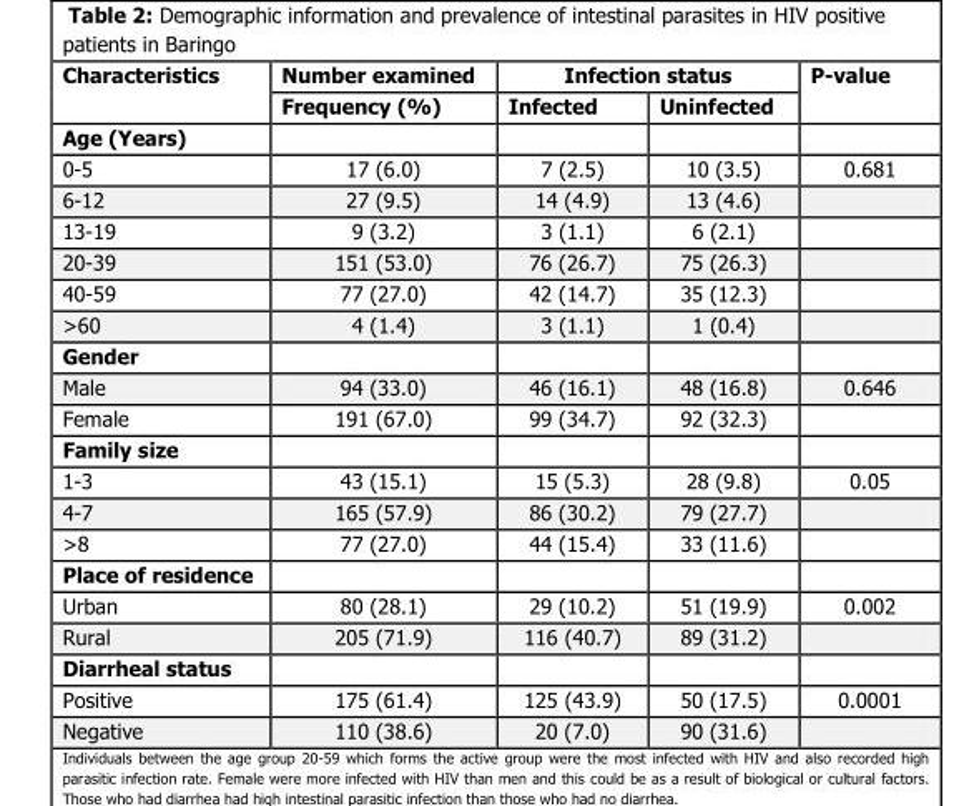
<table><thead><tr><td rowspan="2">Characteristics</td><td rowspan="2">Number examined Frequency (%)</td><td colspan="2">Infection status</td><td rowspan="2">P-value</td></tr><tr><td>Infected</td><td>Uninfected</td></tr></thead><tbody><tr><td colspan="5">Age (Years)</td></tr><tr><td>0-5</td><td>17 (6.0)</td><td>7 (2.5)</td><td>10 (3.5)</td><td>0.681</td></tr><tr><td>6-12</td><td>27 (9.5)</td><td>14 (4.9)</td><td>13 (4.6)</td><td></td></tr><tr><td>13-19</td><td>9 (3.2)</td><td>3 (1.1)</td><td>6 (2.1)</td><td></td></tr><tr><td>20-39</td><td>151 (53.0)</td><td>76 (26.7)</td><td>75 (26.3)</td><td></td></tr><tr><td>40-59</td><td>77 (27.0)</td><td>42 (14.7)</td><td>35 (12.3)</td><td></td></tr><tr><td>&gt;60</td><td>4 (1.4)</td><td>3 (1.1)</td><td>1 (0.4)</td><td></td></tr><tr><td colspan="5">Gender</td></tr><tr><td>Male</td><td>94 (33.0)</td><td>46 (16.1)</td><td>48 (16.8)</td><td>0.646</td></tr><tr><td>Female</td><td>191 (67.0)</td><td>99 (34.7)</td><td>92 (32.3)</td><td></td></tr><tr><td colspan="5">Family size</td></tr><tr><td>1-3</td><td>43 (15.1)</td><td>15 (5.3)</td><td>28 (9.8)</td><td>0.05</td></tr><tr><td>4-7</td><td>165 (57.9)</td><td>86 (30.2)</td><td>79 (27.7)</td><td></td></tr><tr><td>&gt;8</td><td>77 (27.0)</td><td>44 (15.4)</td><td>33 (11.6)</td><td></td></tr><tr><td colspan="5">Place of residence</td></tr><tr><td>Urban</td><td>80 (28.1)</td><td>29 (10.2)</td><td>51 (19.9)</td><td>0.002</td></tr><tr><td>Rural</td><td>205 (71.9)</td><td>116 (40.7)</td><td>89 (31.2)</td><td></td></tr><tr><td colspan="5">Diarrheal status</td></tr><tr><td>Positive</td><td>175 (61.4)</td><td>125 (43.9)</td><td>50 (17.5)</td><td>0.0001</td></tr><tr><td>Negative</td><td>110 (38.6)</td><td>20 (7.0)</td><td>90 (31.6)</td><td></td></tr></tbody></table>